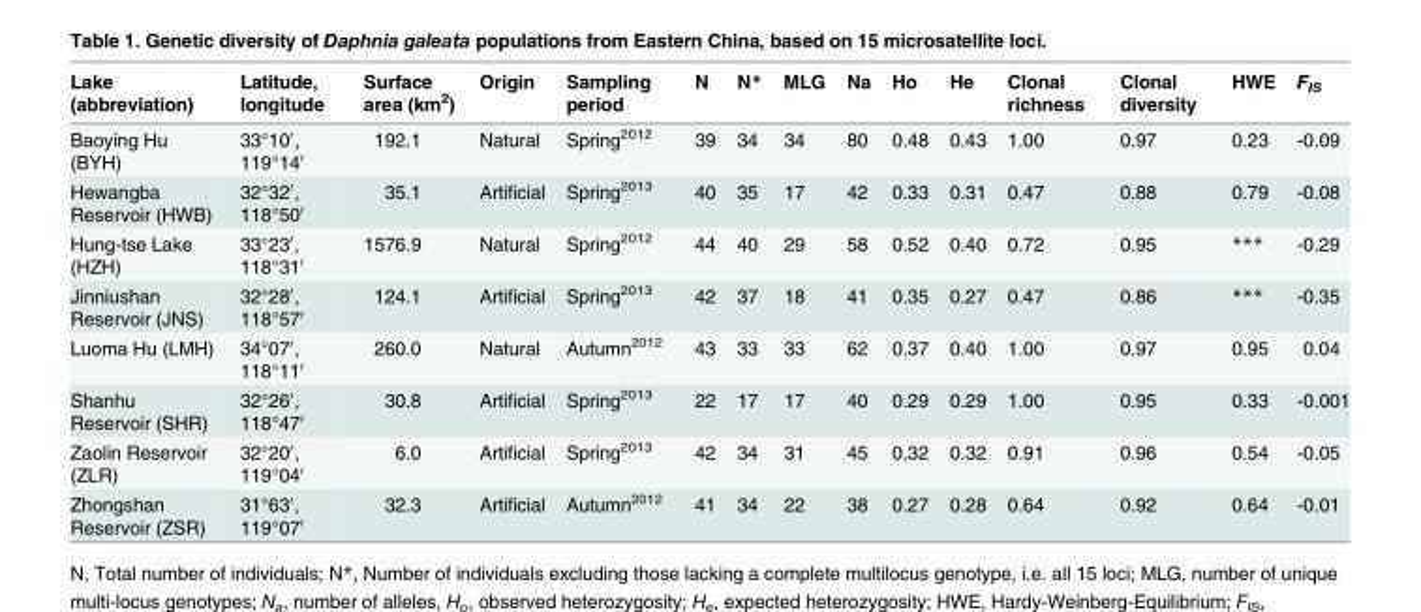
<table><thead><tr><td>Lake (abbreviation)</td><td>Latitude, longitude</td><td>Surface area (km<sup>2</sup>)</td><td>Origin</td><td>Sampling period</td><td>N</td><td>N*</td><td>MLG</td><td>Na</td><td>Ho</td><td>He</td><td>Clonal richness</td><td>Clonal diversity</td><td>HWE</td><td>F<sub>IS</sub></td></tr></thead><tbody><tr><td>Baoying Hu (BYH)</td><td>33°10′, 119°14′</td><td>192.1</td><td>Natural</td><td>Spring<sup>2012</sup></td><td>39</td><td>34</td><td>34</td><td>80</td><td>0.48</td><td>0.43</td><td>1.00</td><td>0.97</td><td>0.23</td><td>-0.09</td></tr><tr><td>Hewangba Reservoir (HWB)</td><td>32°32′, 118°50′</td><td>35.1</td><td>Artificial</td><td>Spring<sup>2013</sup></td><td>40</td><td>35</td><td>17</td><td>42</td><td>0.33</td><td>0.31</td><td>0.47</td><td>0.88</td><td>0.79</td><td>-0.08</td></tr><tr><td>Hung-tse Lake (HZH)</td><td>33°23′, 118°31′</td><td>1576.9</td><td>Natural</td><td>Spring<sup>2012</sup></td><td>44</td><td>40</td><td>29</td><td>58</td><td>0.52</td><td>0.40</td><td>0.72</td><td>0.95</td><td>***</td><td>-0.29</td></tr><tr><td>Jinniushan Reservoir (JNS)</td><td>32°28′, 118°57′</td><td>124.1</td><td>Artificial</td><td>Spring<sup>2013</sup></td><td>42</td><td>37</td><td>18</td><td>41</td><td>0.35</td><td>0.27</td><td>0.47</td><td>0.86</td><td>***</td><td>-0.35</td></tr><tr><td>Luoma Hu (LMH)</td><td>34°07′, 118°11′</td><td>260.0</td><td>Natural</td><td>Autumn<sup>2012</sup></td><td>43</td><td>33</td><td>33</td><td>62</td><td>0.37</td><td>0.40</td><td>1.00</td><td>0.97</td><td>0.95</td><td>0.04</td></tr><tr><td>Shanhu Reservoir (SHR)</td><td>32°26′, 118°47′</td><td>30.8</td><td>Artificial</td><td>Spring<sup>2013</sup></td><td>22</td><td>17</td><td>17</td><td>40</td><td>0.29</td><td>0.29</td><td>1.00</td><td>0.95</td><td>0.33</td><td>-0.001</td></tr><tr><td>Zaolin Reservoir (ZLR)</td><td>32°20′, 119°04′</td><td>6.0</td><td>Artificial</td><td>Spring<sup>2013</sup></td><td>42</td><td>34</td><td>31</td><td>45</td><td>0.32</td><td>0.32</td><td>0.91</td><td>0.96</td><td>0.54</td><td>-0.05</td></tr><tr><td>Zhongshan Reservoir (ZSR)</td><td>31°63′, 119°07′</td><td>32.3</td><td>Artificial</td><td>Autumn<sup>2012</sup></td><td>41</td><td>34</td><td>22</td><td>38</td><td>0.27</td><td>0.28</td><td>0.64</td><td>0.92</td><td>0.64</td><td>-0.01</td></tr></tbody></table>